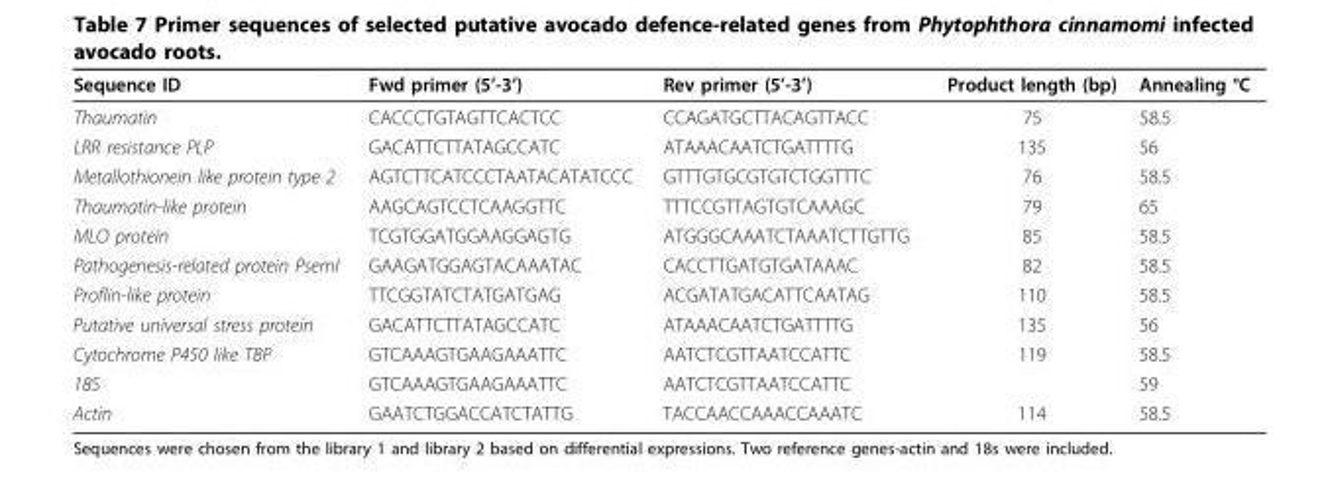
<table><thead><tr><td>Sequence ID</td><td>Fwd primer (5’-3’)</td><td>Rev primer (5’-3’)</td><td>Product length (bp)</td><td>Annealing °C</td></tr></thead><tbody><tr><td>Thaumatin</td><td>CACCCTGTAGTTCACTCC</td><td>CCAGATGCTTACAGTTACC</td><td>75</td><td>58.5</td></tr><tr><td>LRR resistance PLP</td><td>GACATTCTTATAGCCATC</td><td>ATAAACAATCTGATTTTG</td><td>135</td><td>56</td></tr><tr><td>Metallothionein like protein type 2</td><td>AGTCTTCATCCCTAATACATATCCC</td><td>GTTTGTGCGTGTCTGGTTTC</td><td>76</td><td>58.5</td></tr><tr><td>Thaumatin-like protein</td><td>AAGCAGTCCTCAAGGTTC</td><td>TTTCCGTTAGTGTCAAAGC</td><td>79</td><td>65</td></tr><tr><td>MLO protein</td><td>TCGTGGATGGAAGGAGTG</td><td>ATGGGCAAATCTAAATCTTGTTG</td><td>85</td><td>58.5</td></tr><tr><td>Pathogenesis-related protein PsemI</td><td>GAAGATGGAGTACAAATAC</td><td>CACCTTGATGTGATAAAC</td><td>82</td><td>58.5</td></tr><tr><td>Proflin-like protein</td><td>TTCGGTATCTATGATGAG</td><td>ACGATATGACATTCAATAG</td><td>110</td><td>58.5</td></tr><tr><td>Putative universal stress protein</td><td>GACATTCTTATAGCCATC</td><td>ATAAACAATCTGATTTTG</td><td>135</td><td>56</td></tr><tr><td>Cytochrome P450 like TBP</td><td>GTCAAAGTGAAGAAATTC</td><td>AATCTCGTTAATCCATTC</td><td>119</td><td>58.5</td></tr><tr><td>18S</td><td>GTCAAAGTGAAGAAATTC</td><td>AATCTCGTTAATCCATTC</td><td></td><td>59</td></tr><tr><td>Actin</td><td>GAATCTGGACCATCTATTG</td><td>TACCAACCAAACCAAATC</td><td>114</td><td>58.5</td></tr></tbody></table>